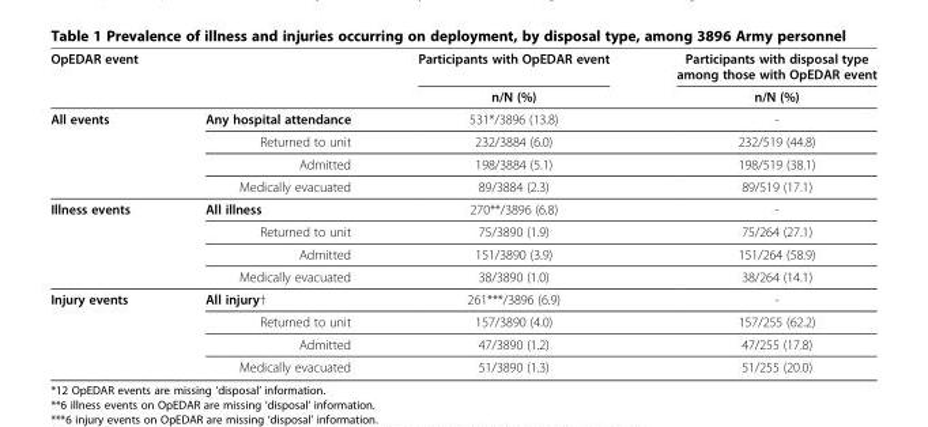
<table><thead><tr><td rowspan="2">OpEDAR event</td><td rowspan="2"></td><td rowspan="2">Participants with OpEDAR event n/N (%)</td><td rowspan="2">Participants with disposal type among those with OpEDAR event n/N (%)</td></tr><tr></tr></thead><tbody><tr><td rowspan="4">All events</td><td>Any hospital attendance</td><td>531*/3896 (13.8)</td><td>-</td></tr><tr><td>Returned to unit</td><td>232/3884 (6.0)</td><td>232/519 (44.8)</td></tr><tr><td>Admitted</td><td>198/3884 (5.1)</td><td>198/519 (38.1)</td></tr><tr><td>Medically evacuated</td><td>89/3884 (2.3)</td><td>89/519 (17.1)</td></tr><tr><td rowspan="4">Illness events</td><td>All illness</td><td>270**/3896 (6.8)</td><td>-</td></tr><tr><td>Returned to unit</td><td>75/3890 (1.9)</td><td>75/264 (27.1)</td></tr><tr><td>Admitted</td><td>151/3890 (3.9)</td><td>151/264 (58.9)</td></tr><tr><td>Medically evacuated</td><td>38/3890 (1.0)</td><td>38/264 (14.1)</td></tr><tr><td rowspan="4">Injury events</td><td>All injury†</td><td>261***/3896 (6.9)</td><td>-</td></tr><tr><td>Returned to unit</td><td>157/3890 (4.0)</td><td>157/255 (62.2)</td></tr><tr><td>Admitted</td><td>47/3890 (1.2)</td><td>47/255 (17.8)</td></tr><tr><td>Medically evacuated</td><td>51/3890 (1.3)</td><td>51/255 (20.0)</td></tr></tbody></table>